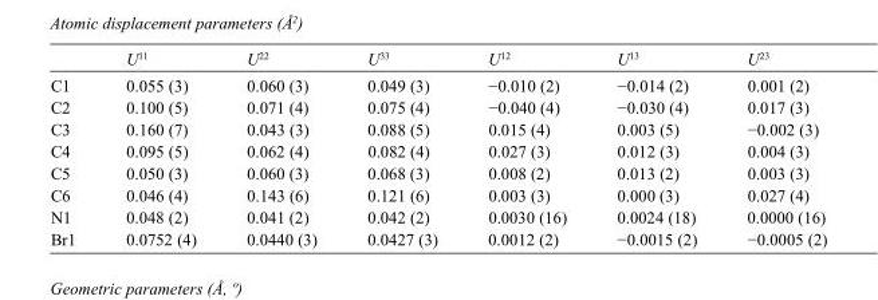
<table><thead><tr><td></td><td>U<sup>11</sup></td><td>U<sup>22</sup></td><td>U<sup>33</sup></td><td>U<sup>12</sup></td><td>U<sup>13</sup></td><td>U<sup>23</sup></td></tr></thead><tbody><tr><td>C1</td><td>0.055 (3)</td><td>0.060 (3)</td><td>0.049 (3)</td><td>−0.010 (2)</td><td>−0.014 (2)</td><td>0.001 (2)</td></tr><tr><td>C2</td><td>0.100 (5)</td><td>0.071 (4)</td><td>0.075 (4)</td><td>−0.040 (4)</td><td>−0.030 (4)</td><td>0.017 (3)</td></tr><tr><td>C3</td><td>0.160 (7)</td><td>0.043 (3)</td><td>0.088 (5)</td><td>0.015 (4)</td><td>0.003 (5)</td><td>−0.002 (3)</td></tr><tr><td>C4</td><td>0.095 (5)</td><td>0.062 (4)</td><td>0.082 (4)</td><td>0.027 (3)</td><td>0.012 (3)</td><td>0.004 (3)</td></tr><tr><td>C5</td><td>0.050 (3)</td><td>0.060 (3)</td><td>0.068 (3)</td><td>0.008 (2)</td><td>0.013 (2)</td><td>0.003 (3)</td></tr><tr><td>C6</td><td>0.046 (4)</td><td>0.143 (6)</td><td>0.121 (6)</td><td>0.003 (3)</td><td>0.000 (3)</td><td>0.027 (4)</td></tr><tr><td>N1</td><td>0.048 (2)</td><td>0.041 (2)</td><td>0.042 (2)</td><td>0.0030 (16)</td><td>0.0024 (18)</td><td>0.0000 (16)</td></tr><tr><td>Br1</td><td>0.0752 (4)</td><td>0.0440 (3)</td><td>0.0427 (3)</td><td>0.0012 (2)</td><td>−0.0015 (2)</td><td>−0.0005 (2)</td></tr></tbody></table>